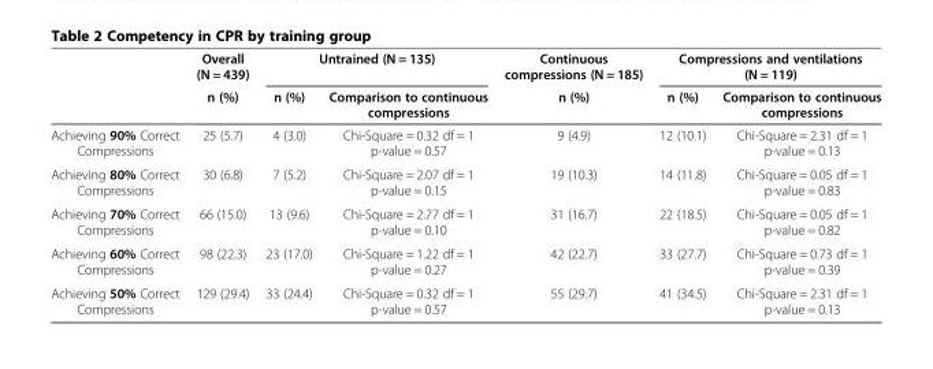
<table><thead><tr><td rowspan="2"></td><td rowspan="2">Overall (N = 439) n (%)</td><td colspan="2">Untrained (N = 135)</td><td rowspan="2">Continuous compressions (N = 185) n (%)</td><td colspan="2">Compressions and ventilations (N = 119)</td></tr><tr><td>n (%)</td><td>Comparison to continuous compressions</td><td>n (%)</td><td>Comparison to continuous compressions</td></tr></thead><tbody><tr><td>Achieving 90% Correct Compressions</td><td>25 (5.7)</td><td>4 (3.0)</td><td>Chi-Square = 0.32 df = 1 p-value = 0.57</td><td>9 (4.9)</td><td>12 (10.1)</td><td>Chi-Square = 2.31 df = 1 p-value = 0.13</td></tr><tr><td>Achieving 80% Correct Compressions</td><td>30 (6.8)</td><td>7 (5.2)</td><td>Chi-Square = 2.07 df = 1 p-value = 0.15</td><td>19 (10.3)</td><td>14 (11.8)</td><td>Chi-Square = 0.05 df = 1 p-value = 0.83</td></tr><tr><td>Achieving 70% Correct Compressions</td><td>66 (15.0)</td><td>13 (9.6)</td><td>Chi-Square = 2.77 df = 1 p-value = 0.10</td><td>31 (16.7)</td><td>22 (18.5)</td><td>Chi-Square = 0.05 df = 1 p-value = 0.82</td></tr><tr><td>Achieving 60% Correct Compressions</td><td>98 (22.3)</td><td>23 (17.0)</td><td>Chi-Square = 1.22 df = 1 p-value = 0.27</td><td>42 (22.7)</td><td>33 (27.7)</td><td>Chi-Square = 0.73 df = 1 p-value = 0.39</td></tr><tr><td>Achieving 50% Correct Compressions</td><td>129 (29.4)</td><td>33 (24.4)</td><td>Chi-Square = 0.32 df = 1 p-value = 0.57</td><td>55 (29.7)</td><td>41 (34.5)</td><td>Chi-Square = 2.31 df = 1 p-value = 0.13</td></tr></tbody></table>